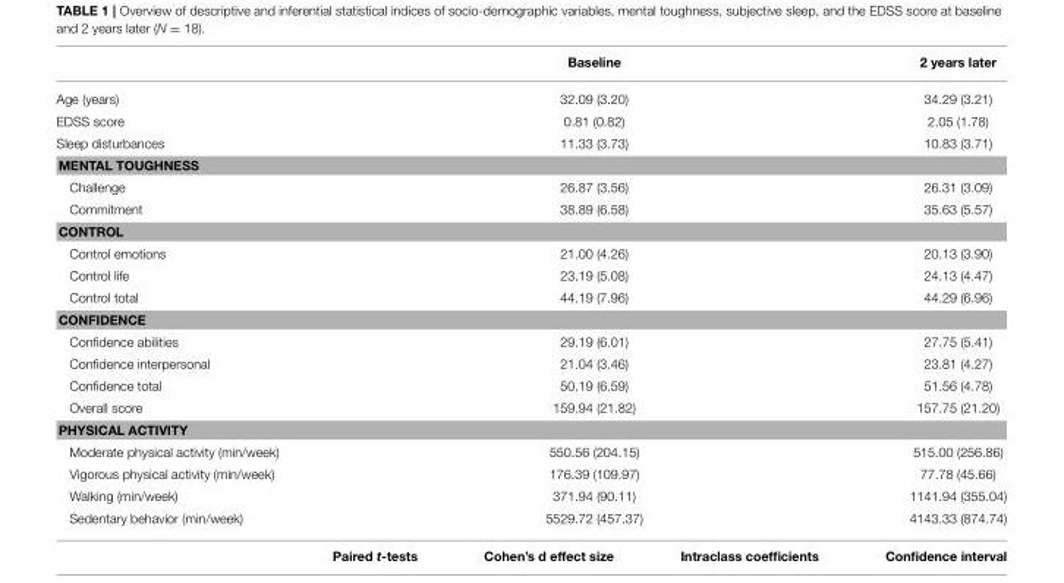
<table><thead><tr><td></td><td>Baseline</td><td>2 years later</td></tr></thead><tbody><tr><td>Age (years)</td><td>32.09 (3.20)</td><td>34.29 (3.21)</td></tr><tr><td>EDSS score</td><td>0.81 (0.82)</td><td>2.05 (1.78)</td></tr><tr><td>Sleep disturbances</td><td>11.33 (3.73)</td><td>10.83 (3.71)</td></tr><tr><td colspan="3">MENTAL TOUGHNESS</td></tr><tr><td>Challenge</td><td>26.87 (3.56)</td><td>26.31 (3.09)</td></tr><tr><td>Commitment</td><td>38.89 (6.58)</td><td>35.63 (5.57)</td></tr><tr><td colspan="3">CONTROL</td></tr><tr><td>Control emotions</td><td>21.00 (4.26)</td><td>20.13 (3.90)</td></tr><tr><td>Control life</td><td>23.19 (5.08)</td><td>24.13 (4.47)</td></tr><tr><td>Control total</td><td>44.19 (7.96)</td><td>44.29 (6.96)</td></tr><tr><td colspan="3">CONFIDENCE</td></tr><tr><td>Confidence abilities</td><td>29.19 (6.01)</td><td>27.75 (5.41)</td></tr><tr><td>Confidence interpersonal</td><td>21.04 (3.46)</td><td>23.81 (4.27)</td></tr><tr><td>Confidence total</td><td>50.19 (6.59)</td><td>51.56 (4.78)</td></tr><tr><td>Overall score</td><td>159.94 (21.82)</td><td>157.75 (21.20)</td></tr><tr><td colspan="3">PHYSICAL ACTIVITY</td></tr><tr><td>Moderate physical activity (min/week)</td><td>550.56 (204.15)</td><td>515.00 (256.86)</td></tr><tr><td>Vigorous physical activity (min/week)</td><td>176.39 (109.97)</td><td>77.78 (45.66)</td></tr><tr><td>Walking (min/week)</td><td>371.94 (90.11)</td><td>1141.94 (355.04)</td></tr><tr><td>Sedentary behavior (min/week)</td><td>5529.72 (457.37)</td><td>4143.33 (874.74)</td></tr></tbody></table>